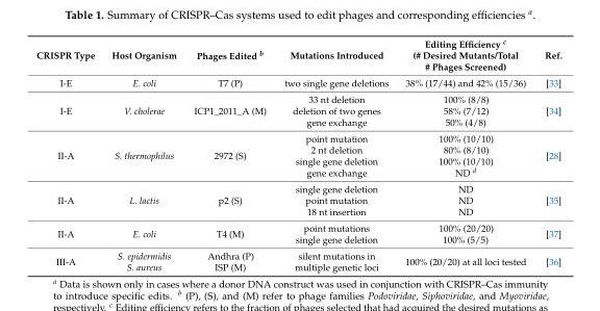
<table><thead><tr><td>CRISPR Type</td><td>Host Organism</td><td>Phages Edited <sup>b</sup></td><td>Mutations Introduced</td><td>Editing Efficiency <sup>c</sup> (# Desired Mutants/Total # Phages Screened)</td><td>Ref.</td></tr></thead><tbody><tr><td>I-E</td><td>E. coli</td><td>T7 (P)</td><td>two single gene deletions</td><td>38% (17/44) and 42% (15/36)</td><td>[33]</td></tr><tr><td>I-E</td><td>V. cholerae</td><td>ICP1_2011_A (M)</td><td>33 nt deletion deletion of two genes gene exchange</td><td>100% (8/8) 58% (7/12) 50% (4/8)</td><td>[34]</td></tr><tr><td>II-A</td><td>S. thermophilus</td><td>2972 (S)</td><td>point mutation 2 nt deletion single gene deletion gene exchange</td><td>100% (10/10) 80% (8/10) 100% (10/10) ND <sup>d</sup></td><td>[28]</td></tr><tr><td>II-A</td><td>L. lactis</td><td>p2 (S)</td><td>single gene deletion point mutation 18 nt insertion</td><td>ND ND ND</td><td>[35]</td></tr><tr><td>II-A</td><td>E. coli</td><td>T4 (M)</td><td>point mutations single gene deletion</td><td>100% (20/20) 100% (5/5)</td><td>[37]</td></tr><tr><td>III-A</td><td>S. epidermidis S. aureus</td><td>Andhra (P) ISP (M)</td><td>silent mutations in multiple genetic loci</td><td>100% (20/20) at all loci tested</td><td>[36]</td></tr></tbody></table>